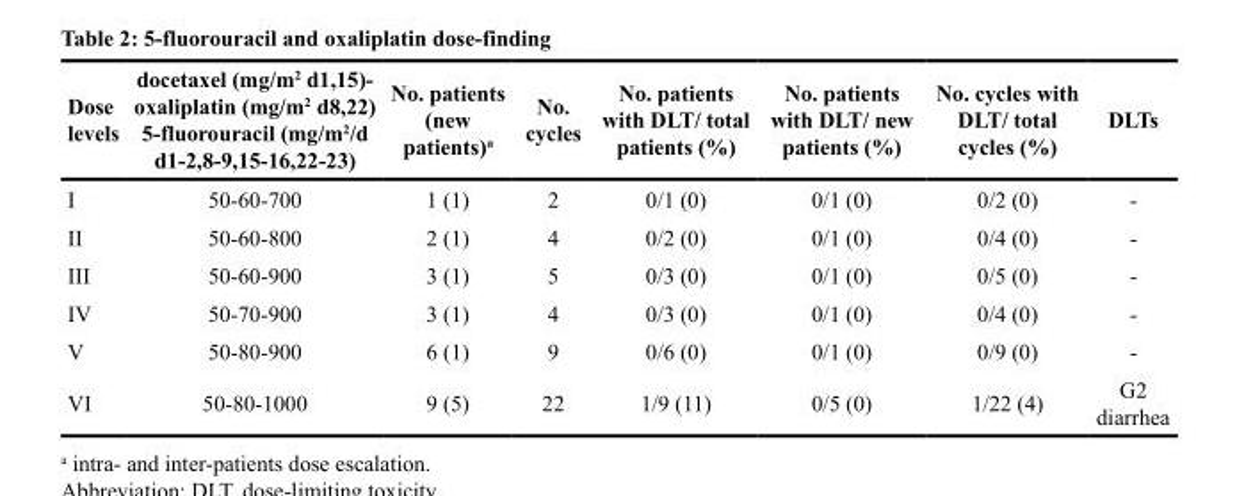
<table><thead><tr><td>Dose levels</td><td>docetaxel (mg/m<sup>2</sup> d1,15)- oxaliplatin (mg/m<sup>2</sup> d8,22) 5-fluorouracil (mg/m<sup>2</sup>/d d1-2,8-9,15-16,22-23)</td><td>No. patients (new patients)<sup>a</sup></td><td>No. cycles</td><td>No. patients with DLT/ total patients (%)</td><td>No. patients with DLT/ new patients (%)</td><td>No. cycles with DLT/ total cycles (%)</td><td>DLTs</td></tr></thead><tbody><tr><td>I</td><td>50-60-700</td><td>1 (1)</td><td>2</td><td>0/1 (0)</td><td>0/1 (0)</td><td>0/2 (0)</td><td>-</td></tr><tr><td>II</td><td>50-60-800</td><td>2 (1)</td><td>4</td><td>0/2 (0)</td><td>0/1 (0)</td><td>0/4 (0)</td><td>-</td></tr><tr><td>III</td><td>50-60-900</td><td>3 (1)</td><td>5</td><td>0/3 (0)</td><td>0/1 (0)</td><td>0/5 (0)</td><td>-</td></tr><tr><td>IV</td><td>50-70-900</td><td>3 (1)</td><td>4</td><td>0/3 (0)</td><td>0/1 (0)</td><td>0/4 (0)</td><td>-</td></tr><tr><td>V</td><td>50-80-900</td><td>6 (1)</td><td>9</td><td>0/6 (0)</td><td>0/1 (0)</td><td>0/9 (0)</td><td>-</td></tr><tr><td>VI</td><td>50-80-1000</td><td>9 (5)</td><td>22</td><td>1/9 (11)</td><td>0/5 (0)</td><td>1/22 (4)</td><td>G2 diarrhea</td></tr></tbody></table>